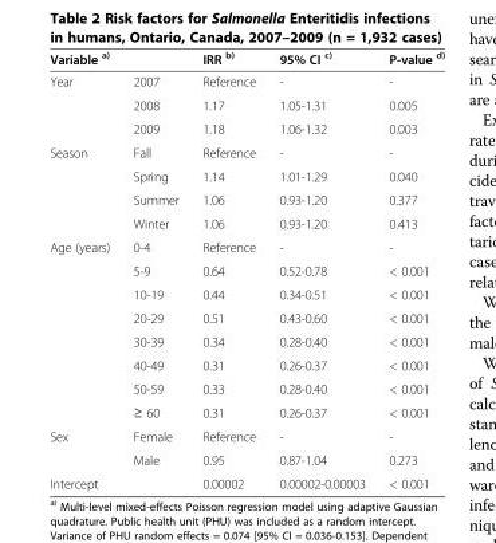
<table><thead><tr><td colspan="2">Variable <sup>a)</sup></td><td rowspan="2">IRR <sup>b)</sup> Reference</td><td rowspan="2">95% CI <sup>c)</sup> -</td><td rowspan="2">P-value <sup>d)</sup> -</td></tr><tr><td>Year</td><td>2007</td></tr></thead><tbody><tr><td></td><td>2008</td><td>1.17</td><td>1.05-1.31</td><td>0.005</td></tr><tr><td></td><td>2009</td><td>1.18</td><td>1.06-1.32</td><td>0.003</td></tr><tr><td rowspan="4">Season</td><td>Fall</td><td>Reference</td><td>-</td><td>-</td></tr><tr><td>Spring</td><td>1.14</td><td>1.01-1.29</td><td>0.040</td></tr><tr><td>Summer</td><td>1.06</td><td>0.93-1.20</td><td>0.377</td></tr><tr><td>Winter</td><td>1.06</td><td>0.93-1.20</td><td>0.413</td></tr><tr><td rowspan="8">Age (years)</td><td>0-4</td><td>Reference</td><td>-</td><td>-</td></tr><tr><td>5-9</td><td>0.64</td><td>0.52-0.78</td><td>&lt; 0.001</td></tr><tr><td>10-19</td><td>0.44</td><td>0.34-0.51</td><td>&lt; 0.001</td></tr><tr><td>20-29</td><td>0.51</td><td>0.43-0.60</td><td>&lt; 0.001</td></tr><tr><td>30-39</td><td>0.34</td><td>0.28-0.40</td><td>&lt; 0.001</td></tr><tr><td>40-49</td><td>0.31</td><td>0.26-0.37</td><td>&lt; 0.001</td></tr><tr><td>50-59</td><td>0.33</td><td>0.28-0.40</td><td>&lt; 0.001</td></tr><tr><td>≥ 60</td><td>0.31</td><td>0.26-0.37</td><td>&lt; 0.001</td></tr><tr><td rowspan="2">Sex</td><td>Female</td><td>Reference</td><td>-</td><td>-</td></tr><tr><td>Male</td><td>0.95</td><td>0.87-1.04</td><td>0.273</td></tr><tr><td colspan="2">Intercept</td><td>0.00002</td><td>0.00002-0.00003</td><td>&lt; 0.001</td></tr></tbody></table>